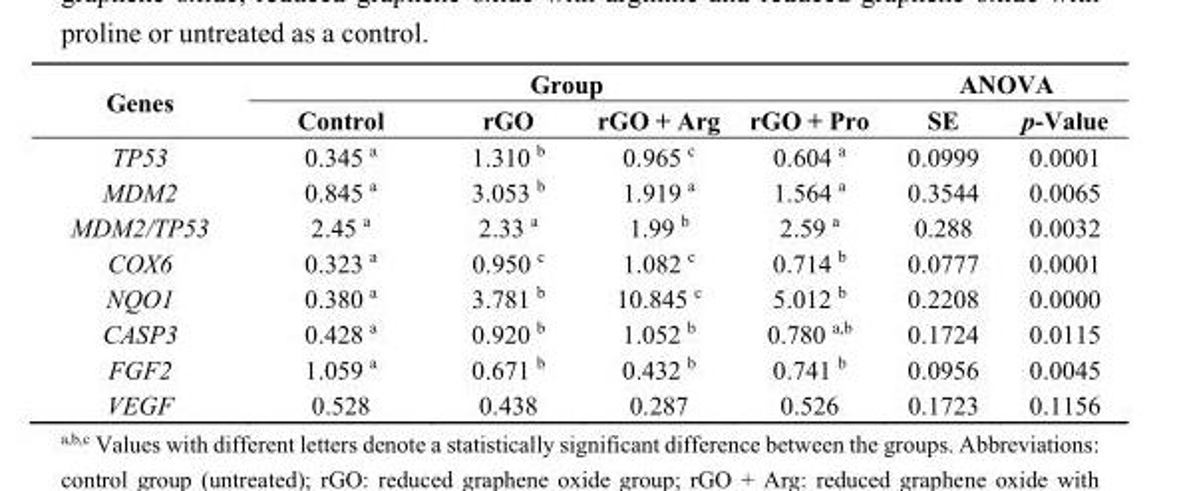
<table><thead><tr><td rowspan="2">Genes</td><td colspan="4">Group</td><td colspan="2">ANOVA</td></tr><tr><td>Control</td><td>rGO</td><td>rGO + Arg</td><td>rGO + Pro</td><td>SE</td><td>p-Value</td></tr></thead><tbody><tr><td>TP53</td><td>0.345 <sup>a</sup></td><td>1.310 <sup>b</sup></td><td>0.965 <sup>c</sup></td><td>0.604 <sup>a</sup></td><td>0.0999</td><td>0.0001</td></tr><tr><td>MDM2</td><td>0.845 <sup>a</sup></td><td>3.053 <sup>b</sup></td><td>1.919 <sup>a</sup></td><td>1.564 <sup>a</sup></td><td>0.3544</td><td>0.0065</td></tr><tr><td>MDM2/TP53</td><td>2.45 <sup>a</sup></td><td>2.33 <sup>a</sup></td><td>1.99 <sup>b</sup></td><td>2.59 <sup>a</sup></td><td>0.288</td><td>0.0032</td></tr><tr><td>COX6</td><td>0.323 <sup>a</sup></td><td>0.950 <sup>c</sup></td><td>1.082 <sup>c</sup></td><td>0.714 <sup>b</sup></td><td>0.0777</td><td>0.0001</td></tr><tr><td>NQO1</td><td>0.380 <sup>a</sup></td><td>3.781 <sup>b</sup></td><td>10.845 <sup>c</sup></td><td>5.012 <sup>b</sup></td><td>0.2208</td><td>0.0000</td></tr><tr><td>CASP3</td><td>0.428 <sup>a</sup></td><td>0.920 <sup>b</sup></td><td>1.052 <sup>b</sup></td><td>0.780 <sup>a,b</sup></td><td>0.1724</td><td>0.0115</td></tr><tr><td>FGF2</td><td>1.059 <sup>a</sup></td><td>0.671 <sup>b</sup></td><td>0.432 <sup>b</sup></td><td>0.741 <sup>b</sup></td><td>0.0956</td><td>0.0045</td></tr><tr><td>VEGF</td><td>0.528</td><td>0.438</td><td>0.287</td><td>0.526</td><td>0.1723</td><td>0.1156</td></tr></tbody></table>